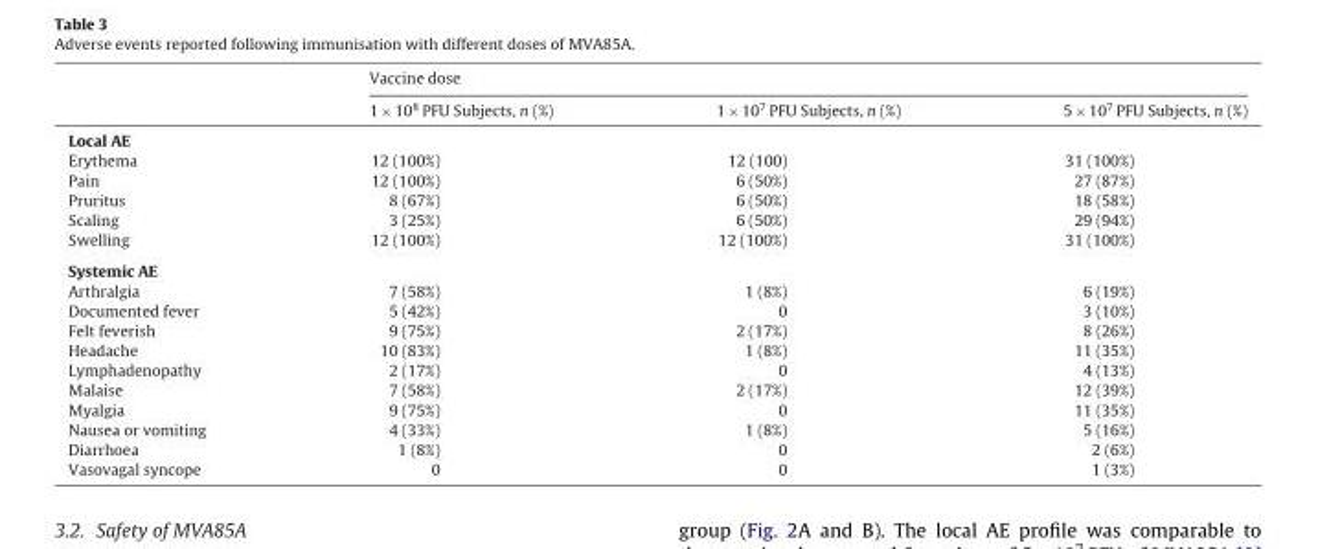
<table><thead><tr><td rowspan="2"></td><td colspan="3">Vaccine dose</td></tr><tr><td>1 × 10<sup>8</sup> PFU Subjects, n (%)</td><td>1 × 10<sup>7</sup> PFU Subjects, n (%)</td><td>5 × 10<sup>7</sup> PFU Subjects, n (%)</td></tr></thead><tbody><tr><td colspan="4">Local AE</td></tr><tr><td>Erythema</td><td>12 (100%)</td><td>12 (100)</td><td>31 (100%)</td></tr><tr><td>Pain</td><td>12 (100%)</td><td>6 (50%)</td><td>27 (87%)</td></tr><tr><td>Pruritus</td><td>8 (67%)</td><td>6 (50%)</td><td>18 (58%)</td></tr><tr><td>Scaling</td><td>3 (25%)</td><td>6 (50%)</td><td>29 (94%)</td></tr><tr><td>Swelling</td><td>12 (100%)</td><td>12 (100%)</td><td>31 (100%)</td></tr><tr><td colspan="4">Systemic AE</td></tr><tr><td>Arthralgia</td><td>7 (58%)</td><td>1 (8%)</td><td>6 (19%)</td></tr><tr><td>Documented fever</td><td>5 (42%)</td><td>0</td><td>3 (10%)</td></tr><tr><td>Felt feverish</td><td>9 (75%)</td><td>2 (17%)</td><td>8 (26%)</td></tr><tr><td>Headache</td><td>10 (83%)</td><td>1 (8%)</td><td>11 (35%)</td></tr><tr><td>Lymphadenopathy</td><td>2 (17%)</td><td>0</td><td>4 (13%)</td></tr><tr><td>Malaise</td><td>7 (58%)</td><td>2 (17%)</td><td>12 (39%)</td></tr><tr><td>Myalgia</td><td>9 (75%)</td><td>0</td><td>11 (35%)</td></tr><tr><td>Nausea or vomiting</td><td>4 (33%)</td><td>1 (8%)</td><td>5 (16%)</td></tr><tr><td>Diarrhoea</td><td>1 (8%)</td><td>0</td><td>2 (6%)</td></tr><tr><td>Vasovagal syncope</td><td>0</td><td>0</td><td>1 (3%)</td></tr></tbody></table>